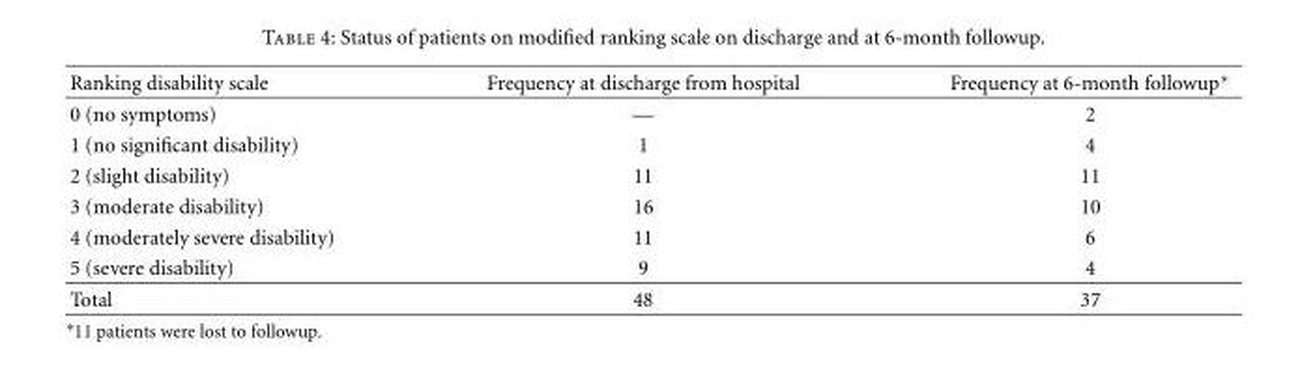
<table><thead><tr><td>Ranking disability scale</td><td>Frequency at discharge from hospital</td><td>Frequency at 6-month followup∗</td></tr></thead><tbody><tr><td>0 (no symptoms)</td><td>—</td><td>2</td></tr><tr><td>1 (no significant disability)</td><td>1</td><td>4</td></tr><tr><td>2 (slight disability)</td><td>11</td><td>11</td></tr><tr><td>3 (moderate disability)</td><td>16</td><td>10</td></tr><tr><td>4 (moderately severe disability)</td><td>11</td><td>6</td></tr><tr><td>5 (severe disability)</td><td>9</td><td>4</td></tr><tr><td>Total</td><td>48</td><td>37</td></tr></tbody></table>